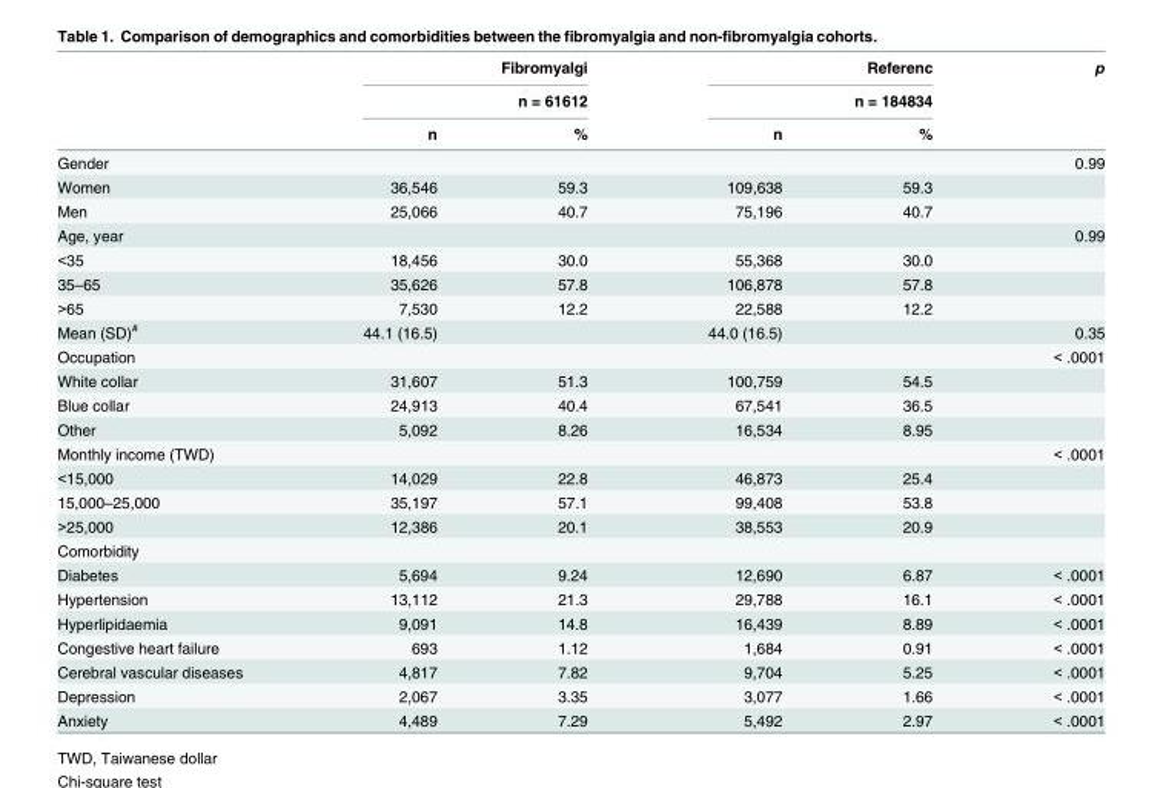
<table><thead><tr><td rowspan="3"></td><td rowspan="2" colspan="2">Fibromyalgi n = 61612</td><td rowspan="2" colspan="2">Referenc n = 184834</td><td rowspan="3">p</td></tr><tr></tr><tr><td>n</td><td>%</td><td>n</td><td>%</td></tr></thead><tbody><tr><td>Gender</td><td></td><td></td><td></td><td></td><td>0.99</td></tr><tr><td>Women</td><td>36,546</td><td>59.3</td><td>109,638</td><td>59.3</td><td></td></tr><tr><td>Men</td><td>25,066</td><td>40.7</td><td>75,196</td><td>40.7</td><td></td></tr><tr><td>Age, year</td><td></td><td></td><td></td><td></td><td>0.99</td></tr><tr><td>&lt;35</td><td>18,456</td><td>30.0</td><td>55,368</td><td>30.0</td><td></td></tr><tr><td>35–65</td><td>35,626</td><td>57.8</td><td>106,878</td><td>57.8</td><td></td></tr><tr><td>&gt;65</td><td>7,530</td><td>12.2</td><td>22,588</td><td>12.2</td><td></td></tr><tr><td>Mean (SD)<sup>#</sup></td><td>44.1 (16.5)</td><td></td><td>44.0 (16.5)</td><td></td><td>0.35</td></tr><tr><td>Occupation</td><td></td><td></td><td></td><td></td><td>&lt; .0001</td></tr><tr><td>White collar</td><td>31,607</td><td>51.3</td><td>100,759</td><td>54.5</td><td></td></tr><tr><td>Blue collar</td><td>24,913</td><td>40.4</td><td>67,541</td><td>36.5</td><td></td></tr><tr><td>Other</td><td>5,092</td><td>8.26</td><td>16,534</td><td>8.95</td><td></td></tr><tr><td colspan="2">Monthly income (TWD)</td><td></td><td></td><td></td><td>&lt; .0001</td></tr><tr><td>&lt;15,000</td><td>14,029</td><td>22.8</td><td>46,873</td><td>25.4</td><td></td></tr><tr><td>15,000–25,000</td><td>35,197</td><td>57.1</td><td>99,408</td><td>53.8</td><td></td></tr><tr><td>&gt;25,000</td><td>12,386</td><td>20.1</td><td>38,553</td><td>20.9</td><td></td></tr><tr><td colspan="6">Comorbidity</td></tr><tr><td>Diabetes</td><td>5,694</td><td>9.24</td><td>12,690</td><td>6.87</td><td>&lt; .0001</td></tr><tr><td>Hypertension</td><td>13,112</td><td>21.3</td><td>29,788</td><td>16.1</td><td>&lt; .0001</td></tr><tr><td>Hyperlipidaemia</td><td>9,091</td><td>14.8</td><td>16,439</td><td>8.89</td><td>&lt; .0001</td></tr><tr><td>Congestive heart failure</td><td>693</td><td>1.12</td><td>1,684</td><td>0.91</td><td>&lt; .0001</td></tr><tr><td>Cerebral vascular diseases</td><td>4,817</td><td>7.82</td><td>9,704</td><td>5.25</td><td>&lt; .0001</td></tr><tr><td>Depression</td><td>2,067</td><td>3.35</td><td>3,077</td><td>1.66</td><td>&lt; .0001</td></tr><tr><td>Anxiety</td><td>4,489</td><td>7.29</td><td>5,492</td><td>2.97</td><td>&lt; .0001</td></tr></tbody></table>